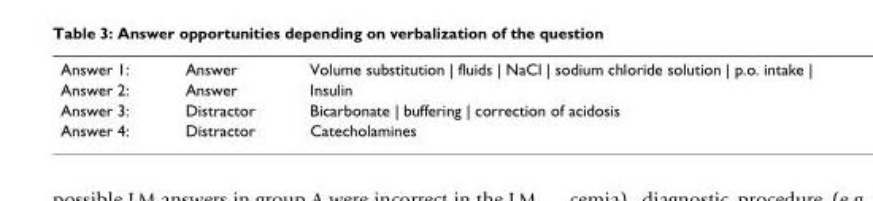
<table><tbody><tr><td>Answer 1:</td><td>Answer</td><td>Volume substitution | fluids | NaCl | sodium chloride solution | p.o. intake |</td></tr><tr><td>Answer 2:</td><td>Answer</td><td>Insulin</td></tr><tr><td>Answer 3:</td><td>Distractor</td><td>Bicarbonate | buffering | correction of acidosis</td></tr><tr><td>Answer 4:</td><td>Distractor</td><td>Catecholamines</td></tr></tbody></table>